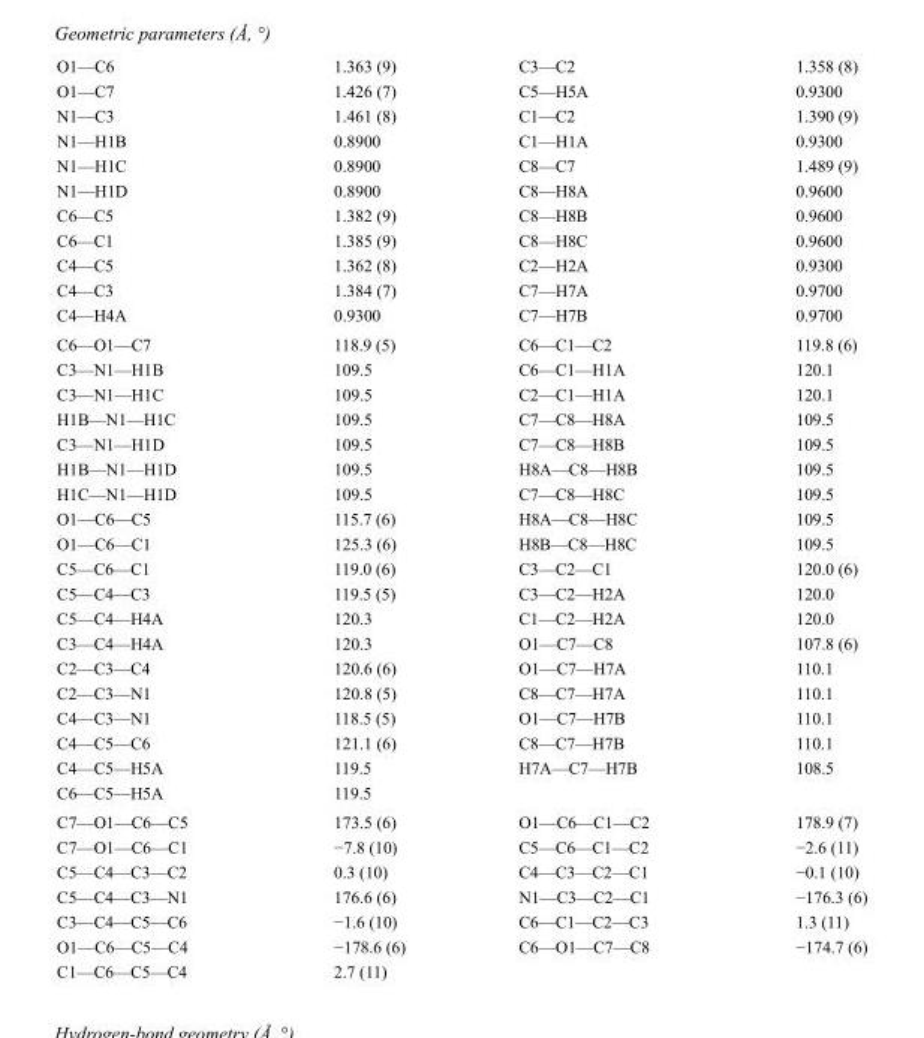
<table><tbody><tr><td>O1—C6</td><td>1.363 (9)</td><td>C3—C2</td><td>1.358 (8)</td></tr><tr><td>O1—C7</td><td>1.426 (7)</td><td>C5—H5A</td><td>0.9300</td></tr><tr><td>N1—C3</td><td>1.461 (8)</td><td>C1—C2</td><td>1.390 (9)</td></tr><tr><td>N1—H1B</td><td>0.8900</td><td>C1—H1A</td><td>0.9300</td></tr><tr><td>N1—H1C</td><td>0.8900</td><td>C8—C7</td><td>1.489 (9)</td></tr><tr><td>N1—H1D</td><td>0.8900</td><td>C8—H8A</td><td>0.9600</td></tr><tr><td>C6—C5</td><td>1.382 (9)</td><td>C8—H8B</td><td>0.9600</td></tr><tr><td>C6—C1</td><td>1.385 (9)</td><td>C8—H8C</td><td>0.9600</td></tr><tr><td>C4—C5</td><td>1.362 (8)</td><td>C2—H2A</td><td>0.9300</td></tr><tr><td>C4—C3</td><td>1.384 (7)</td><td>C7—H7A</td><td>0.9700</td></tr><tr><td>C4—H4A</td><td>0.9300</td><td>C7—H7B</td><td>0.9700</td></tr><tr><td>C6—O1—C7</td><td>118.9 (5)</td><td>C6—C1—C2</td><td>119.8 (6)</td></tr><tr><td>C3—N1—H1B</td><td>109.5</td><td>C6—C1—H1A</td><td>120.1</td></tr><tr><td>C3—N1—H1C</td><td>109.5</td><td>C2—C1—H1A</td><td>120.1</td></tr><tr><td>H1B—N1—H1C</td><td>109.5</td><td>C7—C8—H8A</td><td>109.5</td></tr><tr><td>C3—N1—H1D</td><td>109.5</td><td>C7—C8—H8B</td><td>109.5</td></tr><tr><td>H1B—N1—H1D</td><td>109.5</td><td>H8A—C8—H8B</td><td>109.5</td></tr><tr><td>H1C—N1—H1D</td><td>109.5</td><td>C7—C8—H8C</td><td>109.5</td></tr><tr><td>O1—C6—C5</td><td>115.7 (6)</td><td>H8A—C8—H8C</td><td>109.5</td></tr><tr><td>O1—C6—C1</td><td>125.3 (6)</td><td>H8B—C8—H8C</td><td>109.5</td></tr><tr><td>C5—C6—C1</td><td>119.0 (6)</td><td>C3—C2—C1</td><td>120.0 (6)</td></tr><tr><td>C5—C4—C3</td><td>119.5 (5)</td><td>C3—C2—H2A</td><td>120.0</td></tr><tr><td>C5—C4—H4A</td><td>120.3</td><td>C1—C2—H2A</td><td>120.0</td></tr><tr><td>C3—C4—H4A</td><td>120.3</td><td>O1—C7—C8</td><td>107.8 (6)</td></tr><tr><td>C2—C3—C4</td><td>120.6 (6)</td><td>O1—C7—H7A</td><td>110.1</td></tr><tr><td>C2—C3—N1</td><td>120.8 (5)</td><td>C8—C7—H7A</td><td>110.1</td></tr><tr><td>C4—C3—N1</td><td>118.5 (5)</td><td>O1—C7—H7B</td><td>110.1</td></tr><tr><td>C4—C5—C6</td><td>121.1 (6)</td><td>C8—C7—H7B</td><td>110.1</td></tr><tr><td>C4—C5—H5A</td><td>119.5</td><td>H7A—C7—H7B</td><td>108.5</td></tr><tr><td>C6—C5—H5A</td><td>119.5</td><td></td><td></td></tr><tr><td>C7—O1—C6—C5</td><td>173.5 (6)</td><td>O1—C6—C1—C2</td><td>178.9 (7)</td></tr><tr><td>C7—O1—C6—C1</td><td>−7.8 (10)</td><td>C5—C6—C1—C2</td><td>−2.6 (11)</td></tr><tr><td>C5—C4—C3—C2</td><td>0.3 (10)</td><td>C4—C3—C2—C1</td><td>−0.1 (10)</td></tr><tr><td>C5—C4—C3—N1</td><td>176.6 (6)</td><td>N1—C3—C2—C1</td><td>−176.3 (6)</td></tr><tr><td>C3—C4—C5—C6</td><td>−1.6 (10)</td><td>C6—C1—C2—C3</td><td>1.3 (11)</td></tr><tr><td>O1—C6—C5—C4</td><td>−178.6 (6)</td><td>C6—O1—C7—C8</td><td>−174.7 (6)</td></tr><tr><td>C1—C6—C5—C4</td><td>2.7 (11)</td><td></td><td></td></tr></tbody></table>